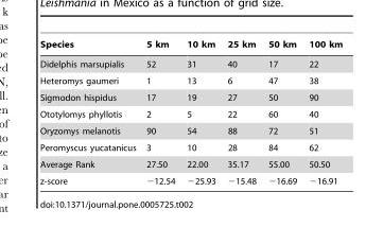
<table><thead><tr><td>Species</td><td>5 km</td><td>10 km</td><td>25 km</td><td>50 km</td><td>100 km</td></tr></thead><tbody><tr><td>Didelphis marsupialis</td><td>52</td><td>31</td><td>40</td><td>17</td><td>22</td></tr><tr><td>Heteromys gaumeri</td><td>1</td><td>13</td><td>6</td><td>47</td><td>38</td></tr><tr><td>Sigmodon hispidus</td><td>17</td><td>19</td><td>27</td><td>50</td><td>90</td></tr><tr><td>Ototylomys phyllotis</td><td>2</td><td>5</td><td>22</td><td>60</td><td>40</td></tr><tr><td>Oryzomys melanotis</td><td>90</td><td>54</td><td>88</td><td>72</td><td>51</td></tr><tr><td>Peromyscus yucatanicus</td><td>3</td><td>10</td><td>28</td><td>84</td><td>62</td></tr><tr><td>Average Rank</td><td>27.50</td><td>22.00</td><td>35.17</td><td>55.00</td><td>50.50</td></tr><tr><td>z-score</td><td>−12.54</td><td>−25.93</td><td>−15.48</td><td>−16.69</td><td>−16.91</td></tr></tbody></table>